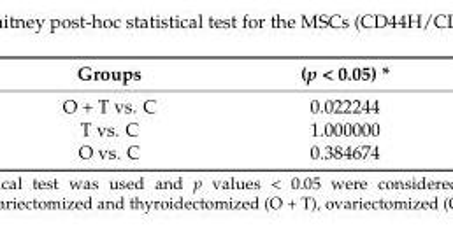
<table><thead><tr><td>Groups</td><td>(p &lt; 0.05) *</td></tr></thead><tbody><tr><td>O + T vs. C</td><td>0.022244</td></tr><tr><td>T vs. C</td><td>1.000000</td></tr><tr><td>O vs. C</td><td>0.384674</td></tr></tbody></table>